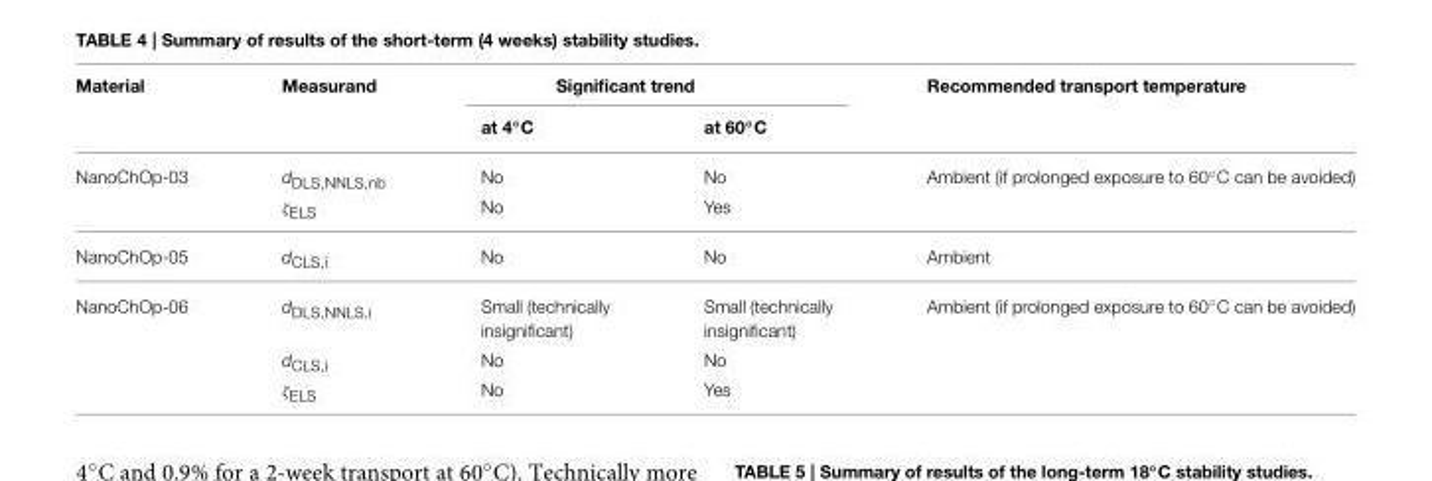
<table><thead><tr><td rowspan="2">Material</td><td rowspan="2">Measurand</td><td colspan="2">Significant trend</td><td rowspan="2">Recommended transport temperature</td></tr><tr><td>at 4◦C</td><td>at 60◦C</td></tr></thead><tbody><tr><td rowspan="2">NanoChOp-03</td><td>d<sub>DLS,NNLS,nb</sub></td><td>No</td><td>No</td><td>Ambient (if prolonged exposure to 60◦C can be avoided)</td></tr><tr><td>ζ<sub>ELS</sub></td><td>No</td><td>Yes</td><td></td></tr><tr><td>NanoChOp-05</td><td>d<sub>CLS,i</sub></td><td>No</td><td>No</td><td>Ambient</td></tr><tr><td rowspan="3">NanoChOp-06</td><td>d<sub>DLS,NNLS,i</sub></td><td>Small (technically insignificant)</td><td>Small (technically insignificant)</td><td>Ambient (if prolonged exposure to 60◦C can be avoided)</td></tr><tr><td>d<sub>CLS,i</sub></td><td>No</td><td>No</td><td></td></tr><tr><td>ζ<sub>ELS</sub></td><td>No</td><td>Yes</td><td></td></tr></tbody></table>